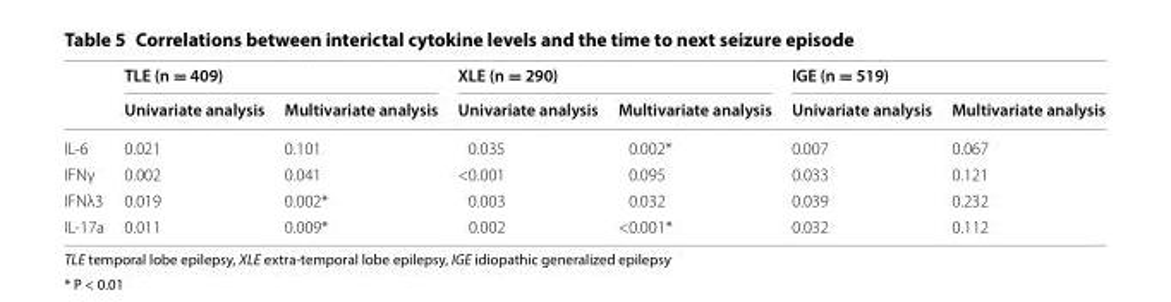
<table><thead><tr><td rowspan="2"></td><td colspan="2">TLE (n = 409)</td><td colspan="2">XLE (n = 290)</td><td colspan="2">IGE (n = 519)</td></tr><tr><td>Univariate analysis</td><td>Multivariate analysis</td><td>Univariate analysis</td><td>Multivariate analysis</td><td>Univariate analysis</td><td>Multivariate analysis</td></tr></thead><tbody><tr><td>IL-6</td><td>0.021</td><td>0.101</td><td>0.035</td><td>0.002*</td><td>0.007</td><td>0.067</td></tr><tr><td>IFNγ</td><td>0.002</td><td>0.041</td><td>&lt;0.001</td><td>0.095</td><td>0.033</td><td>0.121</td></tr><tr><td>IFNλ3</td><td>0.019</td><td>0.002*</td><td>0.003</td><td>0.032</td><td>0.039</td><td>0.232</td></tr><tr><td>IL-17a</td><td>0.011</td><td>0.009*</td><td>0.002</td><td>&lt;0.001*</td><td>0.032</td><td>0.112</td></tr></tbody></table>